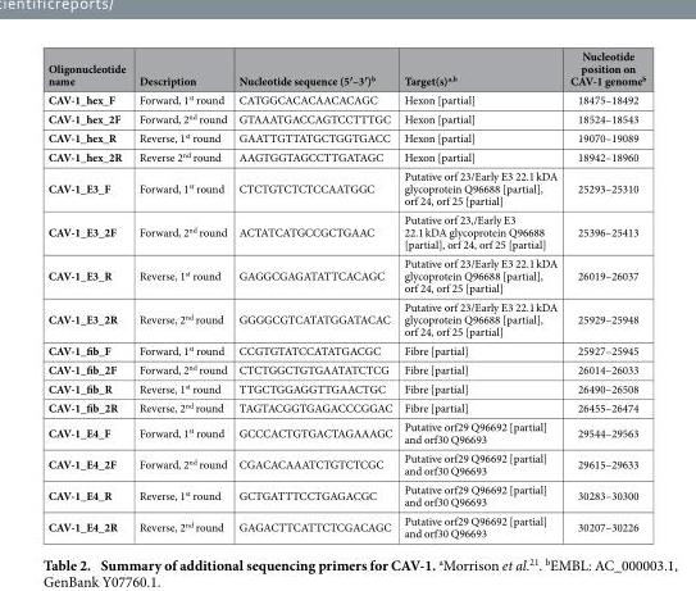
<table><thead><tr><td>Oligonucleotide name</td><td>Description</td><td>Nucleotide sequence (5′–3′)<sup>b</sup></td><td>Target(s)<sup>a</sup>,<sup>b</sup></td><td>Nucleotide position on CAV-1 genome<sup>b</sup></td></tr></thead><tbody><tr><td>CAV-1_hex_F</td><td>Forward, 1<sup>st</sup> round</td><td>CATGGCACACAACACAGC</td><td>Hexon [partial]</td><td>18475–18492</td></tr><tr><td>CAV-1_hex_2F</td><td>Forward, 2<sup>nd</sup> round</td><td>GTAAATGACCAGTCCTTTGC</td><td>Hexon [partial]</td><td>18524–18543</td></tr><tr><td>CAV-1_hex_R</td><td>Reverse, 1<sup>st</sup> round</td><td>GAATTGTTATGCTGGTGACC</td><td>Hexon [partial]</td><td>19070–19089</td></tr><tr><td>CAV-1_hex_2R</td><td>Reverse 2<sup>nd</sup> round</td><td>AAGTGGTAGCCTTGATAGC</td><td>Hexon [partial]</td><td>18942–18960</td></tr><tr><td>CAV-1_E3_F</td><td>Forward, 1<sup>st</sup> round</td><td>CTCTGTCTCTCCAATGGC</td><td>Putative orf 23/Early E3 22.1 kDA glycoprotein Q96688 [partial], orf 24, orf 25 [partial]</td><td>25293–25310</td></tr><tr><td>CAV-1_E3_2F</td><td>Forward, 2<sup>nd</sup> round</td><td>ACTATCATGCCGCTGAAC</td><td>Putative orf 23,/Early E3 22.1 kDA glycoprotein Q96688 [partial], orf 24, orf 25 [partial]</td><td>25396–25413</td></tr><tr><td>CAV-1_E3_R</td><td>Reverse, 1<sup>st</sup> round</td><td>GAGGCGAGATATTCACAGC</td><td>Putative orf 23/Early E3 22.1 kDA glycoprotein Q96688 [partial], orf 24, orf 25 [partial]</td><td>26019–26037</td></tr><tr><td>CAV-1_E3_2R</td><td>Reverse, 2<sup>nd</sup> round</td><td>GGGGCGTCATATGGATACAC</td><td>Putative orf 23/Early E3 22.1 kDA glycoprotein Q96688 [partial], orf 24, orf 25 [partial]</td><td>25929–25948</td></tr><tr><td>CAV-1_fib_F</td><td>Forward, 1<sup>st</sup> round</td><td>CCGTGTATCCATATGACGC</td><td>Fibre [partial]</td><td>25927–25945</td></tr><tr><td>CAV-1_fib_2F</td><td>Forward, 2<sup>nd</sup> round</td><td>CTCTGGCTGTGAATATCTCG</td><td>Fibre [partial]</td><td>26014–26033</td></tr><tr><td>CAV-1_fib_R</td><td>Reverse, 1<sup>st</sup> round</td><td>TTGCTGGAGGTTGAACTGC</td><td>Fibre [partial]</td><td>26490–26508</td></tr><tr><td>CAV-1_fib_2R</td><td>Reverse, 2<sup>nd</sup> round</td><td>TAGTACGGTGAGACCCGGAC</td><td>Fibre [partial]</td><td>26455–26474</td></tr><tr><td>CAV-1_E4_F</td><td>Forward, 1<sup>st</sup> round</td><td>GCCCACTGTGACTAGAAAGC</td><td>Putative orf29 Q96692 [partial] and orf30 Q96693</td><td>29544–29563</td></tr><tr><td>CAV-1_E4_2F</td><td>Forward, 2<sup>nd</sup> round</td><td>CGACACAAATCTGTCTCGC</td><td>Putative orf29 Q96692 [partial] and orf30 Q96693</td><td>29615–29633</td></tr><tr><td>CAV-1_E4_R</td><td>Reverse, 1<sup>st</sup> round</td><td>GCTGATTTCCTGAGACGC</td><td>Putative orf29 Q96692 [partial] and orf30 Q96693</td><td>30283–30300</td></tr><tr><td>CAV-1_E4_2R</td><td>Reverse, 2<sup>nd</sup> round</td><td>GAGACTTCATTCTCGACAGC</td><td>Putative orf29 Q96692 [partial] and orf30 Q96693</td><td>30207–30226</td></tr></tbody></table>